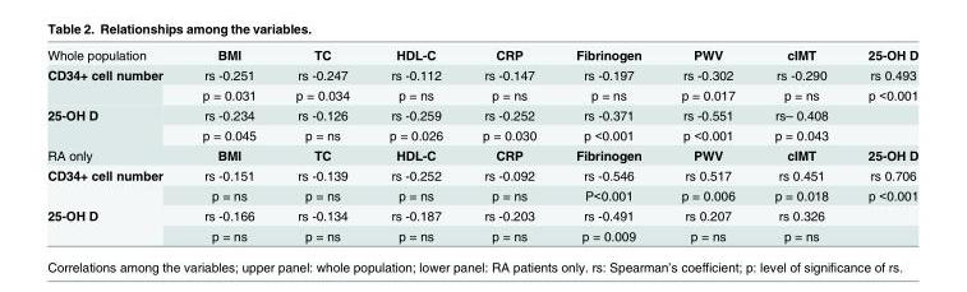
<table><tbody><tr><td>Whole population</td><td>BMI</td><td>TC</td><td>HDL-C</td><td>CRP</td><td>Fibrinogen</td><td>PWV</td><td>cIMT</td><td>25-OH D</td></tr><tr><td rowspan="2">CD34+ cell number</td><td>rs -0.251</td><td>rs -0.247</td><td>rs -0.112</td><td>rs -0.147</td><td>rs -0.197</td><td>rs -0.302</td><td>rs -0.290</td><td>rs 0.493</td></tr><tr><td>p = 0.031</td><td>p = 0.034</td><td>p = ns</td><td>p = ns</td><td>p = ns</td><td>p = 0.017</td><td>p = ns</td><td>p &lt;0.001</td></tr><tr><td rowspan="2">25-OH D</td><td>rs -0.234</td><td>rs -0.126</td><td>rs -0.259</td><td>rs -0.252</td><td>rs -0.371</td><td>rs -0.551</td><td>rs– 0.408</td><td></td></tr><tr><td>p = 0.045</td><td>p = ns</td><td>p = 0.026</td><td>p = 0.030</td><td>p &lt;0.001</td><td>p &lt;0.001</td><td>p = 0.043</td><td></td></tr><tr><td>RA only</td><td>BMI</td><td>TC</td><td>HDL-C</td><td>CRP</td><td>Fibrinogen</td><td>PWV</td><td>cIMT</td><td>25-OH D</td></tr><tr><td rowspan="2">CD34+ cell number</td><td>rs -0.151</td><td>rs -0.139</td><td>rs -0.252</td><td>rs -0.092</td><td>rs -0.546</td><td>rs 0.517</td><td>rs 0.451</td><td>rs 0.706</td></tr><tr><td>p = ns</td><td>p = ns</td><td>p = ns</td><td>p = ns</td><td>P&lt;0.001</td><td>p = 0.006</td><td>p = 0.018</td><td>p &lt;0.001</td></tr><tr><td rowspan="2">25-OH D</td><td>rs -0.166</td><td>rs -0.134</td><td>rs -0.187</td><td>rs -0.203</td><td>rs -0.491</td><td>rs 0.207</td><td>rs 0.326</td><td></td></tr><tr><td>p = ns</td><td>p = ns</td><td>p = ns</td><td>p = ns</td><td>p = 0.009</td><td>p = ns</td><td>p = ns</td><td></td></tr></tbody></table>